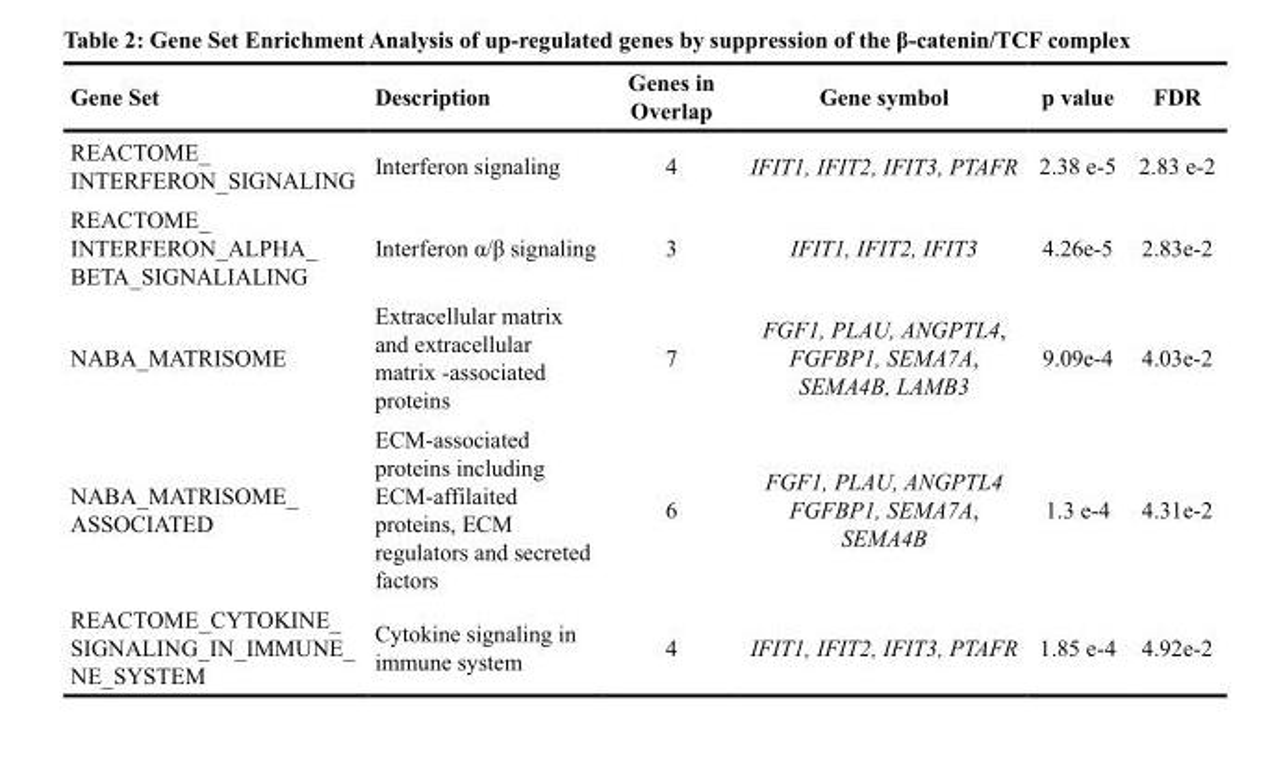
<table><thead><tr><td>Gene Set</td><td>Description</td><td>Genes in Overlap</td><td>Gene symbol</td><td>p value</td><td>FDR</td></tr></thead><tbody><tr><td>REACTOME_ INTERFERON_SIGNALING</td><td>Interferon signaling</td><td>4</td><td>IFIT1, IFIT2, IFIT3, PTAFR</td><td>2.38 e-5</td><td>2.83 e-2</td></tr><tr><td>REACTOME_ INTERFERON_ALPHA_ BETA_SIGNALIALING</td><td>Interferon α/β signaling</td><td>3</td><td>IFIT1, IFIT2, IFIT3</td><td>4.26e-5</td><td>2.83e-2</td></tr><tr><td>NABA_MATRISOME</td><td>Extracellular matrix and extracellular matrix -associated proteins</td><td>7</td><td>FGF1, PLAU, ANGPTL4, FGFBP1, SEMA7A, SEMA4B, LAMB3</td><td>9.09e-4</td><td>4.03e-2</td></tr><tr><td>NABA_MATRISOME_ ASSOCIATED</td><td>ECM-associated proteins including ECM-affilaited proteins, ECM regulators and secreted factors</td><td>6</td><td>FGF1, PLAU, ANGPTL4 FGFBP1, SEMA7A, SEMA4B</td><td>1.3 e-4</td><td>4.31e-2</td></tr><tr><td>REACTOME_CYTOKINE_ SIGNALING_IN_IMMUNE_ NE_SYSTEM</td><td>Cytokine signaling in immune system</td><td>4</td><td>IFIT1, IFIT2, IFIT3, PTAFR</td><td>1.85 e-4</td><td>4.92e-2</td></tr></tbody></table>